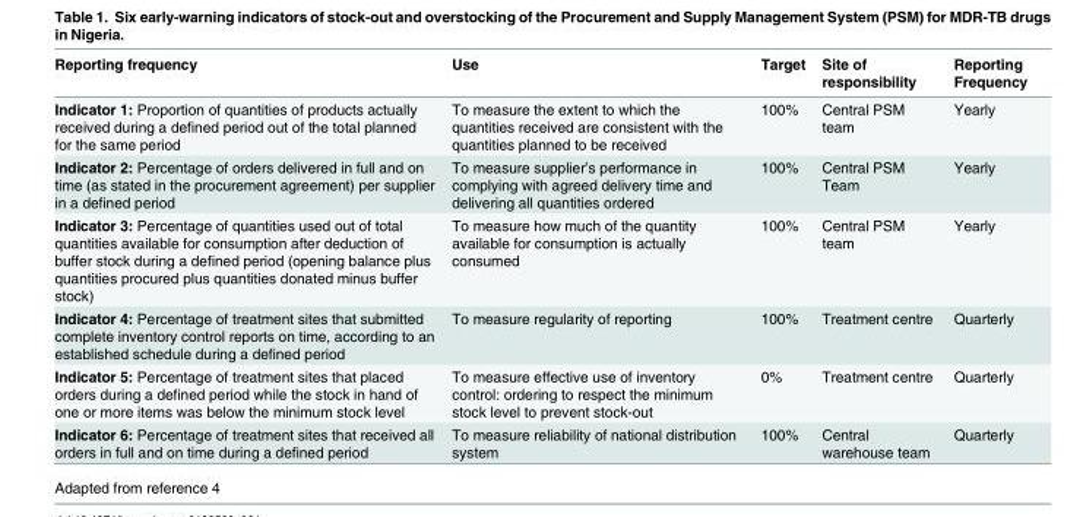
<table><thead><tr><td>Reporting frequency</td><td>Use</td><td>Target</td><td>Site of responsibility</td><td>Reporting Frequency</td></tr></thead><tbody><tr><td>Indicator 1: Proportion of quantities of products actually received during a defined period out of the total planned for the same period</td><td>To measure the extent to which the quantities received are consistent with the quantities planned to be received</td><td>100%</td><td>Central PSM team</td><td>Yearly</td></tr><tr><td>Indicator 2: Percentage of orders delivered in full and on time (as stated in the procurement agreement) per supplier in a defined period</td><td>To measure supplier’s performance in complying with agreed delivery time and delivering all quantities ordered</td><td>100%</td><td>Central PSM Team</td><td>Yearly</td></tr><tr><td>Indicator 3: Percentage of quantities used out of total quantities available for consumption after deduction of buffer stock during a defined period (opening balance plus quantities procured plus quantities donated minus buffer stock)</td><td>To measure how much of the quantity available for consumption is actually consumed</td><td>100%</td><td>Central PSM team</td><td>Yearly</td></tr><tr><td>Indicator 4: Percentage of treatment sites that submitted complete inventory control reports on time, according to an established schedule during a defined period</td><td>To measure regularity of reporting</td><td>100%</td><td>Treatment centre</td><td>Quarterly</td></tr><tr><td>Indicator 5: Percentage of treatment sites that placed orders during a defined period while the stock in hand of one or more items was below the minimum stock level</td><td>To measure effective use of inventory control: ordering to respect the minimum stock level to prevent stock-out</td><td>0%</td><td>Treatment centre</td><td>Quarterly</td></tr><tr><td>Indicator 6: Percentage of treatment sites that received all orders in full and on time during a defined period</td><td>To measure reliability of national distribution system</td><td>100%</td><td>Central warehouse team</td><td>Quarterly</td></tr></tbody></table>